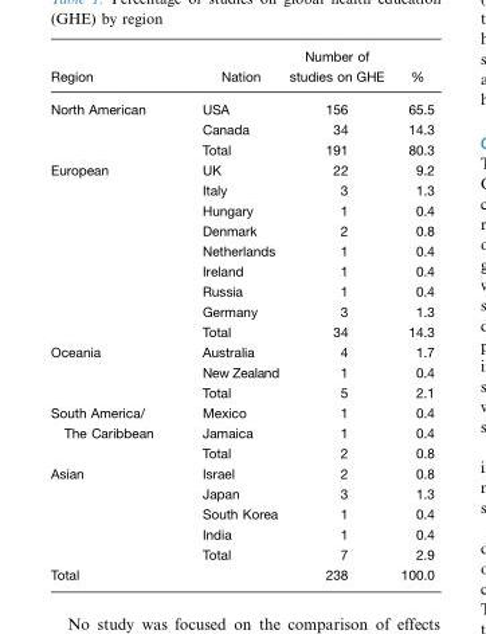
<table><thead><tr><td>Region</td><td>Nation</td><td>Number of studies on GHE</td><td>%</td></tr></thead><tbody><tr><td rowspan="3">North American</td><td>USA</td><td>156</td><td>65.5</td></tr><tr><td>Canada</td><td>34</td><td>14.3</td></tr><tr><td>Total</td><td>191</td><td>80.3</td></tr><tr><td rowspan="9">European</td><td>UK</td><td>22</td><td>9.2</td></tr><tr><td>Italy</td><td>3</td><td>1.3</td></tr><tr><td>Hungary</td><td>1</td><td>0.4</td></tr><tr><td>Denmark</td><td>2</td><td>0.8</td></tr><tr><td>Netherlands</td><td>1</td><td>0.4</td></tr><tr><td>Ireland</td><td>1</td><td>0.4</td></tr><tr><td>Russia</td><td>1</td><td>0.4</td></tr><tr><td>Germany</td><td>3</td><td>1.3</td></tr><tr><td>Total</td><td>34</td><td>14.3</td></tr><tr><td rowspan="3">Oceania</td><td>Australia</td><td>4</td><td>1.7</td></tr><tr><td>New Zealand</td><td>1</td><td>0.4</td></tr><tr><td>Total</td><td>5</td><td>2.1</td></tr><tr><td>South America/</td><td>Mexico</td><td>1</td><td>0.4</td></tr><tr><td rowspan="2">The Caribbean</td><td>Jamaica</td><td>1</td><td>0.4</td></tr><tr><td>Total</td><td>2</td><td>0.8</td></tr><tr><td rowspan="5">Asian</td><td>Israel</td><td>2</td><td>0.8</td></tr><tr><td>Japan</td><td>3</td><td>1.3</td></tr><tr><td>South Korea</td><td>1</td><td>0.4</td></tr><tr><td>India</td><td>1</td><td>0.4</td></tr><tr><td>Total</td><td>7</td><td>2.9</td></tr><tr><td>Total</td><td></td><td>238</td><td>100.0</td></tr></tbody></table>